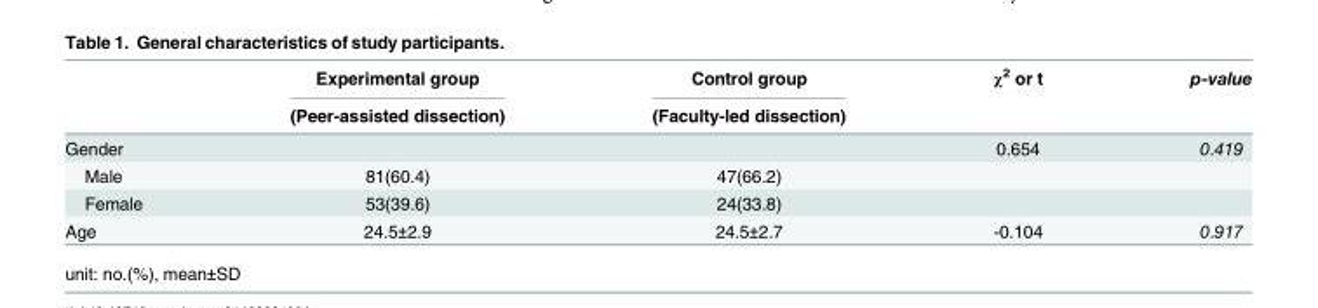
<table><thead><tr><td rowspan="2"></td><td rowspan="2">Experimental group (Peer-assisted dissection)</td><td rowspan="2">Control group (Faculty-led dissection)</td><td rowspan="2">χ<sup>2</sup> or t</td><td rowspan="2">p-value</td></tr><tr></tr></thead><tbody><tr><td>Gender</td><td></td><td></td><td>0.654</td><td>0.419</td></tr><tr><td>Male</td><td>81(60.4)</td><td>47(66.2)</td><td></td><td></td></tr><tr><td>Female</td><td>53(39.6)</td><td>24(33.8)</td><td></td><td></td></tr><tr><td>Age</td><td>24.5±2.9</td><td>24.5±2.7</td><td>-0.104</td><td>0.917</td></tr></tbody></table>